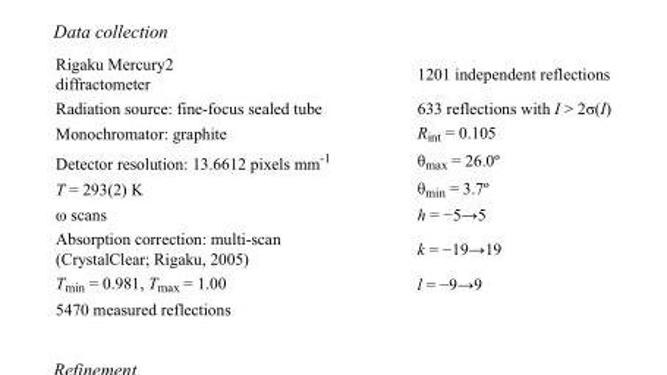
<table><tbody><tr><td>Rigaku Mercury2 diffractometer</td><td>1201 independent reflections</td></tr><tr><td>Radiation source: fine-focus sealed tube</td><td>633 reflections with I &gt; 2σ(I)</td></tr><tr><td>Monochromator: graphite</td><td>R<sub>int</sub> = 0.105</td></tr><tr><td>Detector resolution: 13.6612 pixels mm<sup>-1</sup></td><td>θ<sub>max</sub> = 26.0º</td></tr><tr><td>T = 293(2) K</td><td>θ<sub>min</sub> = 3.7º</td></tr><tr><td>ω scans</td><td>h = −5→5</td></tr><tr><td>Absorption correction: multi-scan (CrystalClear; Rigaku, 2005)</td><td>k = −19→19</td></tr><tr><td>T<sub>min</sub> = 0.981, T<sub>max</sub> = 1.00</td><td>l = −9→9</td></tr><tr><td>5470 measured reflections</td><td></td></tr></tbody></table>